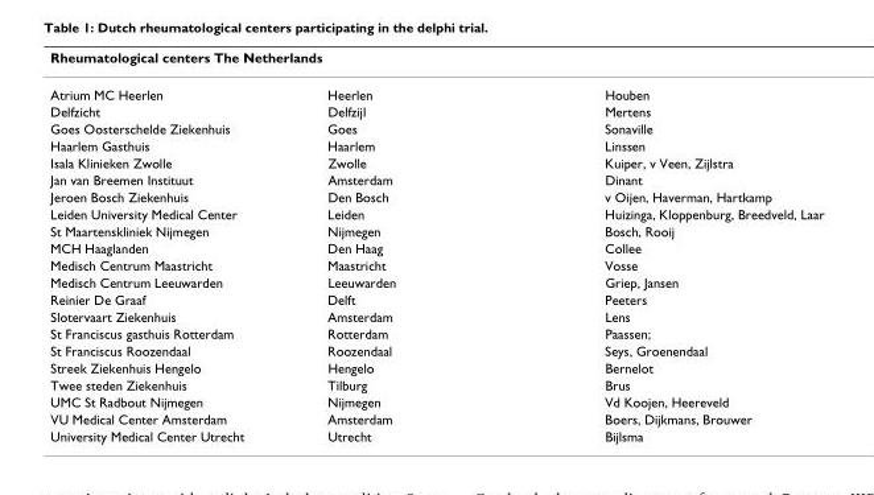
<table><thead><tr><td colspan="3">Rheumatological centers The Netherlands</td></tr><tr><td>Atrium MC Heerlen</td><td>Heerlen</td><td>Houben</td></tr></thead><tbody><tr><td>Delfzicht</td><td>Delfzijl</td><td>Mertens</td></tr><tr><td>Goes Oosterschelde Ziekenhuis</td><td>Goes</td><td>Sonaville</td></tr><tr><td>Haarlem Gasthuis</td><td>Haarlem</td><td>Linssen</td></tr><tr><td>Isala Klinieken Zwolle</td><td>Zwolle</td><td>Kuiper, v Veen, Zijlstra</td></tr><tr><td>Jan van Breemen Instituut</td><td>Amsterdam</td><td>Dinant</td></tr><tr><td>Jeroen Bosch Ziekenhuis</td><td>Den Bosch</td><td>v Oijen, Haverman, Hartkamp</td></tr><tr><td>Leiden University Medical Center</td><td>Leiden</td><td>Huizinga, Kloppenburg, Breedveld, Laar</td></tr><tr><td>St Maartenskliniek Nijmegen</td><td>Nijmegen</td><td>Bosch, Rooij</td></tr><tr><td>MCH Haaglanden</td><td>Den Haag</td><td>Collee</td></tr><tr><td>Medisch Centrum Maastricht</td><td>Maastricht</td><td>Vosse</td></tr><tr><td>Medisch Centrum Leeuwarden</td><td>Leeuwarden</td><td>Griep, Jansen</td></tr><tr><td>Reinier De Graaf</td><td>Delft</td><td>Peeters</td></tr><tr><td>Slotervaart Ziekenhuis</td><td>Amsterdam</td><td>Lens</td></tr><tr><td>St Franciscus gasthuis Rotterdam</td><td>Rotterdam</td><td>Paassen;</td></tr><tr><td>St Franciscus Roozendaal</td><td>Roozendaal</td><td>Seys, Groenendaal</td></tr><tr><td>Streek Ziekenhuis Hengelo</td><td>Hengelo</td><td>Bernelot</td></tr><tr><td>Twee steden Ziekenhuis</td><td>Tilburg</td><td>Brus</td></tr><tr><td>UMC St Radbout Nijmegen</td><td>Nijmegen</td><td>Vd Koojen, Heereveld</td></tr><tr><td>VU Medical Center Amsterdam</td><td>Amsterdam</td><td>Boers, Dijkmans, Brouwer</td></tr><tr><td>University Medical Center Utrecht</td><td>Utrecht</td><td>Bijlsma</td></tr></tbody></table>